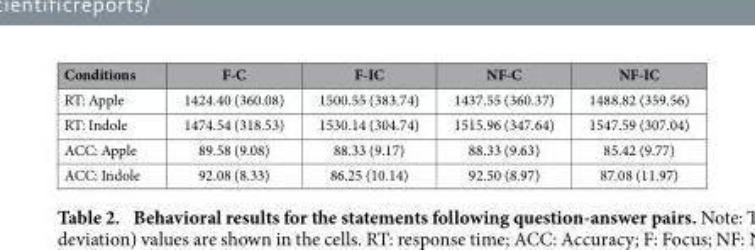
<table><thead><tr><td>Conditions</td><td>F-C</td><td>F-IC</td><td>NF-C</td><td>NF-IC</td></tr></thead><tbody><tr><td>RT: Apple</td><td>1424.40 (360.08)</td><td>1500.55 (383.74)</td><td>1437.55 (360.37)</td><td>1488.82 (359.56)</td></tr><tr><td>RT: Indole</td><td>1474.54 (318.53)</td><td>1530.14 (304.74)</td><td>1515.96 (347.64)</td><td>1547.59 (307.04)</td></tr><tr><td>ACC: Apple</td><td>89.58 (9.08)</td><td>88.33 (9.17)</td><td>88.33 (9.63)</td><td>85.42 (9.77)</td></tr><tr><td>ACC: Indole</td><td>92.08 (8.33)</td><td>86.25 (10.14)</td><td>92.50 (8.97)</td><td>87.08 (11.97)</td></tr></tbody></table>